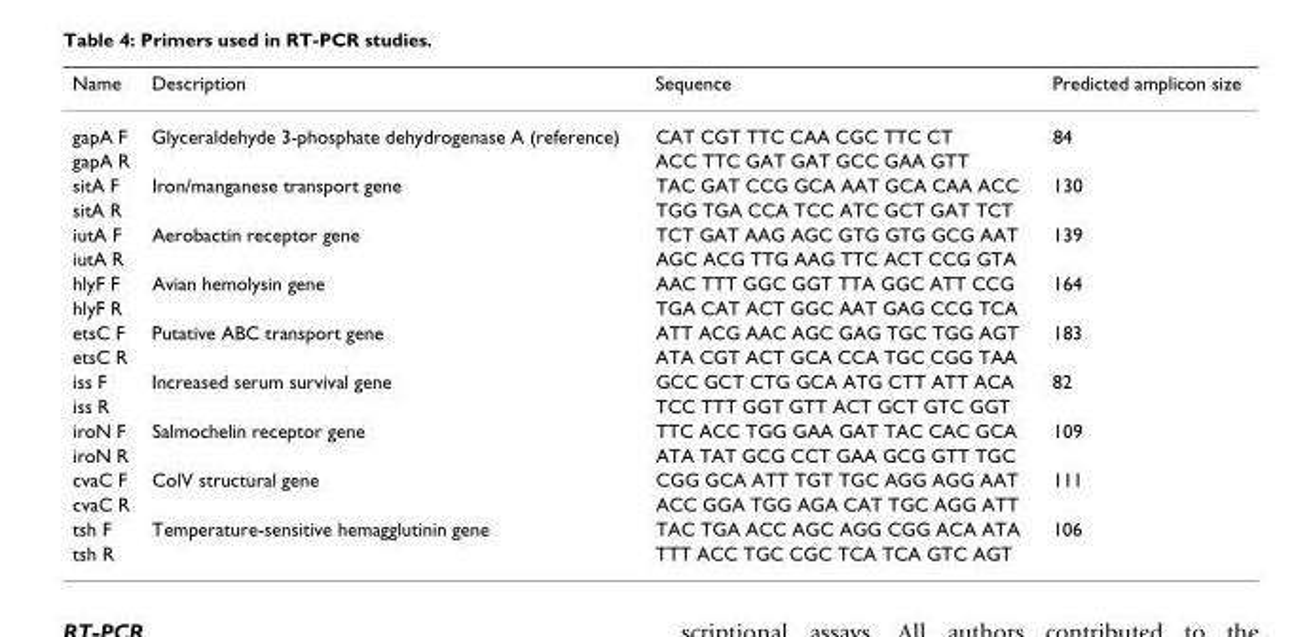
<table><thead><tr><td>Name</td><td>Description</td><td>Sequence</td><td>Predicted amplicon size</td></tr></thead><tbody><tr><td>gapA F</td><td>Glyceraldehyde 3-phosphate dehydrogenase A (reference)</td><td>CAT CGT TTC CAA CGC TTC CT</td><td>84</td></tr><tr><td>gapA R</td><td></td><td>ACC TTC GAT GAT GCC GAA GTT</td><td></td></tr><tr><td>sitA F</td><td>Iron/manganese transport gene</td><td>TAC GAT CCG GCA AAT GCA CAA ACC</td><td>130</td></tr><tr><td>sitA R</td><td></td><td>TGG TGA CCA TCC ATC GCT GAT TCT</td><td></td></tr><tr><td>iutA F</td><td>Aerobactin receptor gene</td><td>TCT GAT AAG AGC GTG GTG GCG AAT</td><td>139</td></tr><tr><td>iutA R</td><td></td><td>AGC ACG TTG AAG TTC ACT CCG GTA</td><td></td></tr><tr><td>hlyF F</td><td>Avian hemolysin gene</td><td>AAC TTT GGC GGT TTA GGC ATT CCG</td><td>164</td></tr><tr><td>hlyF R</td><td></td><td>TGA CAT ACT GGC AAT GAG CCG TCA</td><td></td></tr><tr><td>etsC F</td><td>Putative ABC transport gene</td><td>ATT ACG AAC AGC GAG TGC TGG AGT</td><td>183</td></tr><tr><td>etsC R</td><td></td><td>ATA CGT ACT GCA CCA TGC CGG TAA</td><td></td></tr><tr><td>iss F</td><td>Increased serum survival gene</td><td>GCC GCT CTG GCA ATG CTT ATT ACA</td><td>82</td></tr><tr><td>iss R</td><td></td><td>TCC TTT GGT GTT ACT GCT GTC GGT</td><td></td></tr><tr><td>iroN F</td><td>Salmochelin receptor gene</td><td>TTC ACC TGG GAA GAT TAC CAC GCA</td><td>109</td></tr><tr><td>iroN R</td><td></td><td>ATA TAT GCG CCT GAA GCG GTT TGC</td><td></td></tr><tr><td>cvaC F</td><td>ColV structural gene</td><td>CGG GCA ATT TGT TGC AGG AGG AAT</td><td>111</td></tr><tr><td>cvaC R</td><td></td><td>ACC GGA TGG AGA CAT TGC AGG ATT</td><td></td></tr><tr><td>tsh F</td><td>Temperature-sensitive hemagglutinin gene</td><td>TAC TGA ACC AGC AGG CGG ACA ATA</td><td>106</td></tr><tr><td>tsh R</td><td></td><td>TTT ACC TGC CGC TCA TCA GTC AGT</td><td></td></tr></tbody></table>